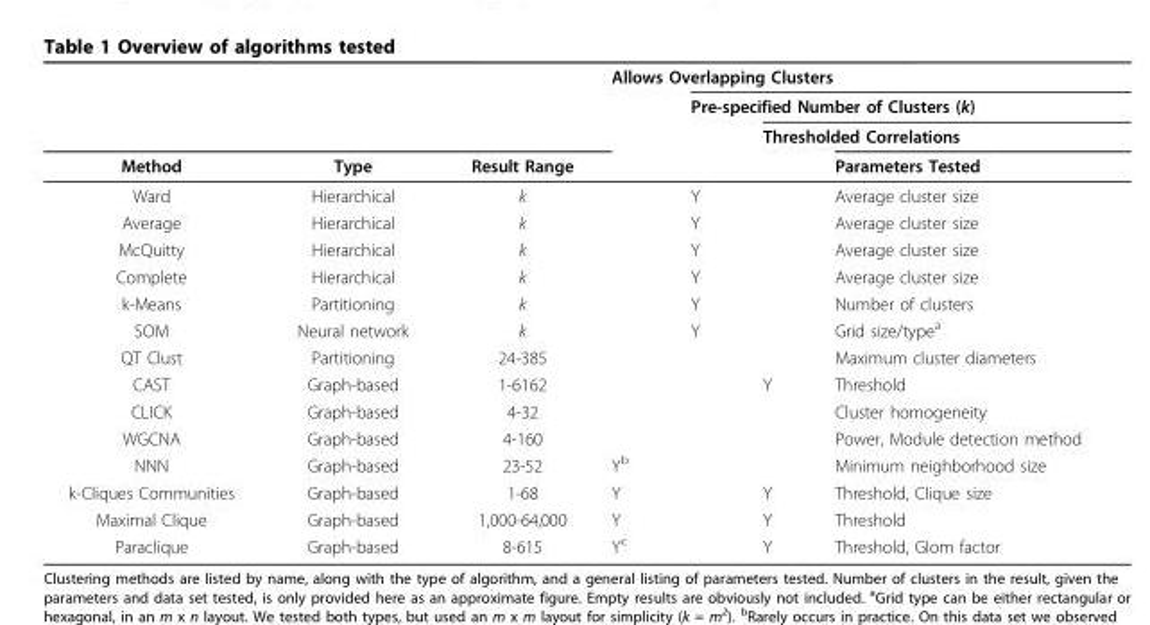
<table><thead><tr><td rowspan="4">Method</td><td rowspan="4">Type</td><td rowspan="4">Result Range</td><td colspan="4">Allows Overlapping Clusters</td></tr><tr><td rowspan="3"></td><td colspan="3">Pre-specified Number of Clusters (k)</td></tr><tr><td rowspan="2"></td><td colspan="2">Thresholded Correlations</td></tr><tr><td></td><td>Parameters Tested</td></tr></thead><tbody><tr><td>Ward</td><td>Hierarchical</td><td>k</td><td></td><td>Y</td><td></td><td>Average cluster size</td></tr><tr><td>Average</td><td>Hierarchical</td><td>k</td><td></td><td>Y</td><td></td><td>Average cluster size</td></tr><tr><td>McQuitty</td><td>Hierarchical</td><td>k</td><td></td><td>Y</td><td></td><td>Average cluster size</td></tr><tr><td>Complete</td><td>Hierarchical</td><td>k</td><td></td><td>Y</td><td></td><td>Average cluster size</td></tr><tr><td>k-Means</td><td>Partitioning</td><td>k</td><td></td><td>Y</td><td></td><td>Number of clusters</td></tr><tr><td>SOM</td><td>Neural network</td><td>k</td><td></td><td>Y</td><td></td><td>Grid size/type<sup>a</sup></td></tr><tr><td>QT Clust</td><td>Partitioning</td><td>24-385</td><td></td><td></td><td></td><td>Maximum cluster diameters</td></tr><tr><td>CAST</td><td>Graph-based</td><td>1-6162</td><td></td><td></td><td>Y</td><td>Threshold</td></tr><tr><td>CLICK</td><td>Graph-based</td><td>4-32</td><td></td><td></td><td></td><td>Cluster homogeneity</td></tr><tr><td>WGCNA</td><td>Graph-based</td><td>4-160</td><td></td><td></td><td></td><td>Power, Module detection method</td></tr><tr><td>NNN</td><td>Graph-based</td><td>23-52</td><td>Y<sup>b</sup></td><td></td><td></td><td>Minimum neighborhood size</td></tr><tr><td>k-Cliques Communities</td><td>Graph-based</td><td>1-68</td><td>Y</td><td></td><td>Y</td><td>Threshold, Clique size</td></tr><tr><td>Maximal Clique</td><td>Graph-based</td><td>1,000-64,000</td><td>Y</td><td></td><td>Y</td><td>Threshold</td></tr><tr><td>Paraclique</td><td>Graph-based</td><td>8-615</td><td>Y<sup>c</sup></td><td></td><td>Y</td><td>Threshold, Glom factor</td></tr></tbody></table>